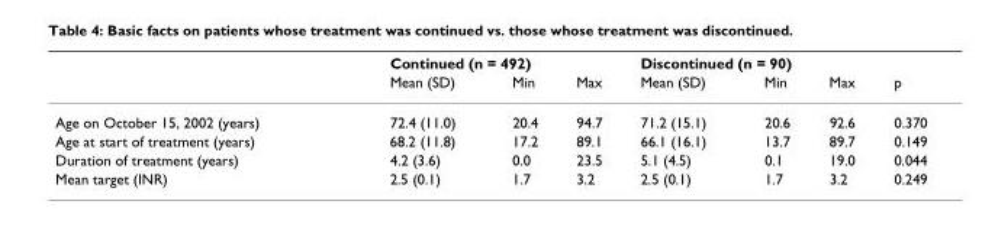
<table><thead><tr><td rowspan="2"></td><td colspan="3">Continued (n = 492)</td><td colspan="3">Discontinued (n = 90)</td><td rowspan="2">p</td></tr><tr><td>Mean (SD)</td><td>Min</td><td>Max</td><td>Mean (SD)</td><td>Min</td><td>Max</td></tr></thead><tbody><tr><td>Age on October 15, 2002 (years)</td><td>72.4 (11.0)</td><td>20.4</td><td>94.7</td><td>71.2 (15.1)</td><td>20.6</td><td>92.6</td><td>0.370</td></tr><tr><td>Age at start of treatment (years)</td><td>68.2 (11.8)</td><td>17.2</td><td>89.1</td><td>66.1 (16.1)</td><td>13.7</td><td>89.7</td><td>0.149</td></tr><tr><td>Duration of treatment (years)</td><td>4.2 (3.6)</td><td>0.0</td><td>23.5</td><td>5.1 (4.5)</td><td>0.1</td><td>19.0</td><td>0.044</td></tr><tr><td>Mean target (INR)</td><td>2.5 (0.1)</td><td>1.7</td><td>3.2</td><td>2.5 (0.1)</td><td>1.7</td><td>3.2</td><td>0.249</td></tr></tbody></table>